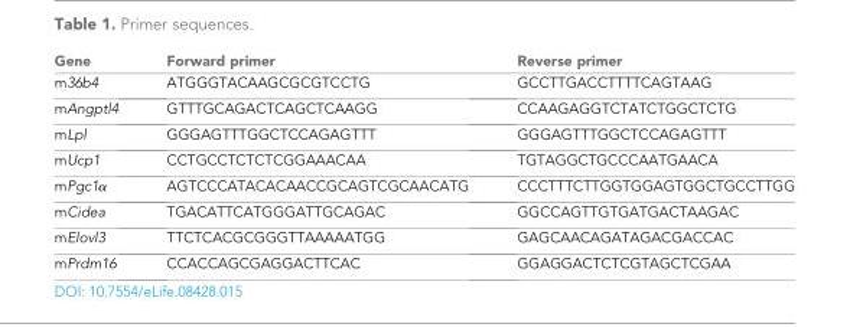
<table><thead><tr><td>Gene</td><td>Forward primer</td><td>Reverse primer</td></tr></thead><tbody><tr><td>m36b4</td><td>ATGGGTACAAGCGCGTCCTG</td><td>GCCTTGACCTTTTCAGTAAG</td></tr><tr><td>mAngptl4</td><td>GTTTGCAGACTCAGCTCAAGG</td><td>CCAAGAGGTCTATCTGGCTCTG</td></tr><tr><td>mLpl</td><td>GGGAGTTTGGCTCCAGAGTTT</td><td>GGGAGTTTGGCTCCAGAGTTT</td></tr><tr><td>mUcp1</td><td>CCTGCCTCTCTCGGAAACAA</td><td>TGTAGGCTGCCCAATGAACA</td></tr><tr><td>mPgc1α</td><td>AGTCCCATACACAACCGCAGTCGCAACATG</td><td>CCCTTTCTTGGTGGAGTGGCTGCCTTGG</td></tr><tr><td>mCidea</td><td>TGACATTCATGGGATTGCAGAC</td><td>GGCCAGTTGTGATGACTAAGAC</td></tr><tr><td>mElovl3</td><td>TTCTCACGCGGGTTAAAAATGG</td><td>GAGCAACAGATAGACGACCAC</td></tr><tr><td>mPrdm16</td><td>CCACCAGCGAGGACTTCAC</td><td>GGAGGACTCTCGTAGCTCGAA</td></tr></tbody></table>